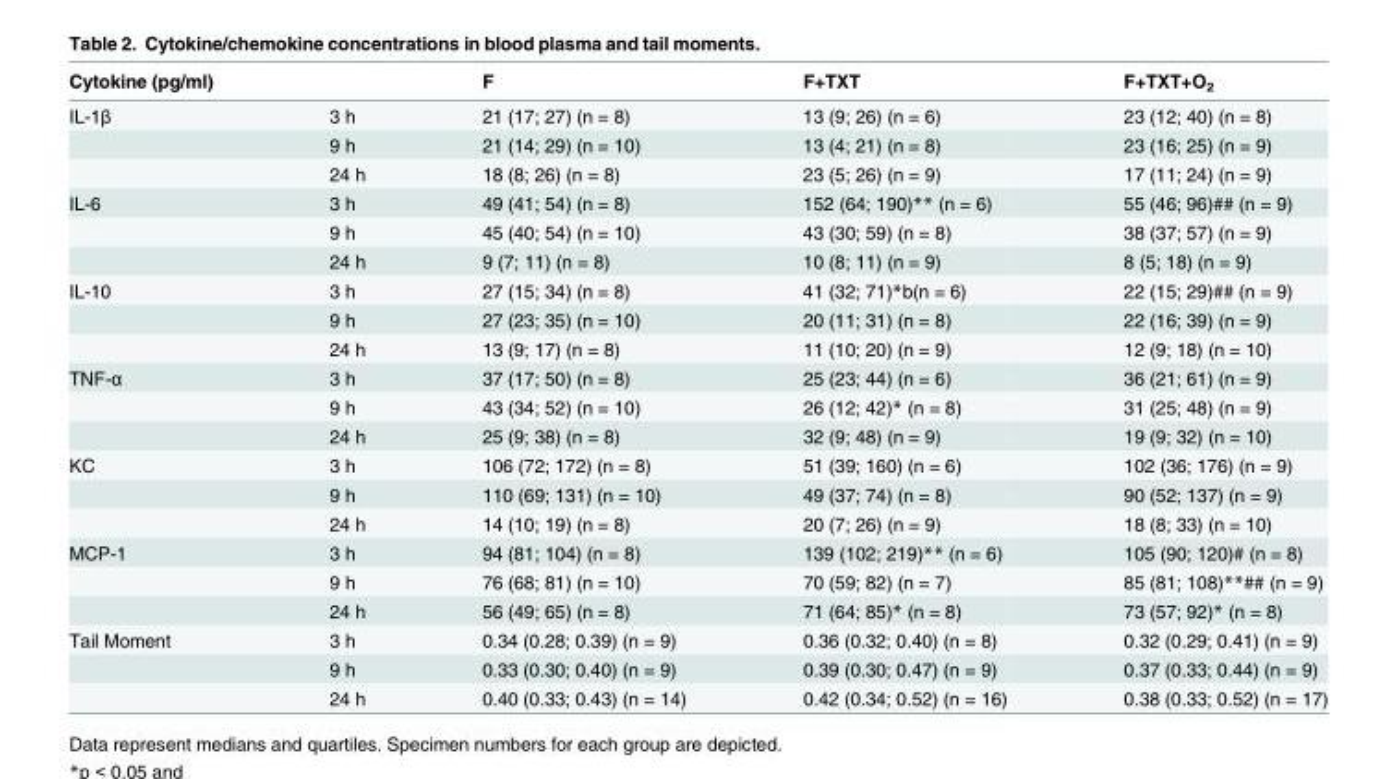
<table><thead><tr><td>Cytokine (pg/ml)</td><td></td><td>F</td><td>F+TXT</td><td>F+TXT+O<sub>2</sub></td></tr></thead><tbody><tr><td rowspan="3">IL-1β</td><td>3 h</td><td>21 (17; 27) (n = 8)</td><td>13 (9; 26) (n = 6)</td><td>23 (12; 40) (n = 8)</td></tr><tr><td>9 h</td><td>21 (14; 29) (n = 10)</td><td>13 (4; 21) (n = 8)</td><td>23 (16; 25) (n = 9)</td></tr><tr><td>24 h</td><td>18 (8; 26) (n = 8)</td><td>23 (5; 26) (n = 9)</td><td>17 (11; 24) (n = 9)</td></tr><tr><td rowspan="3">IL-6</td><td>3 h</td><td>49 (41; 54) (n = 8)</td><td>152 (64; 190)** (n = 6)</td><td>55 (46; 96)## (n = 9)</td></tr><tr><td>9 h</td><td>45 (40; 54) (n = 10)</td><td>43 (30; 59) (n = 8)</td><td>38 (37; 57) (n = 9)</td></tr><tr><td>24 h</td><td>9 (7; 11) (n = 8)</td><td>10 (8; 11) (n = 9)</td><td>8 (5; 18) (n = 9)</td></tr><tr><td rowspan="3">IL-10</td><td>3 h</td><td>27 (15; 34) (n = 8)</td><td>41 (32; 71)*b(n = 6)</td><td>22 (15; 29)## (n = 9)</td></tr><tr><td>9 h</td><td>27 (23; 35) (n = 10)</td><td>20 (11; 31) (n = 8)</td><td>22 (16; 39) (n = 9)</td></tr><tr><td>24 h</td><td>13 (9; 17) (n = 8)</td><td>11 (10; 20) (n = 9)</td><td>12 (9; 18) (n = 10)</td></tr><tr><td rowspan="3">TNF-α</td><td>3 h</td><td>37 (17; 50) (n = 8)</td><td>25 (23; 44) (n = 6)</td><td>36 (21; 61) (n = 9)</td></tr><tr><td>9 h</td><td>43 (34; 52) (n = 10)</td><td>26 (12; 42)* (n = 8)</td><td>31 (25; 48) (n = 9)</td></tr><tr><td>24 h</td><td>25 (9; 38) (n = 8)</td><td>32 (9; 48) (n = 9)</td><td>19 (9; 32) (n = 10)</td></tr><tr><td rowspan="3">KC</td><td>3 h</td><td>106 (72; 172) (n = 8)</td><td>51 (39; 160) (n = 6)</td><td>102 (36; 176) (n = 9)</td></tr><tr><td>9 h</td><td>110 (69; 131) (n = 10)</td><td>49 (37; 74) (n = 8)</td><td>90 (52; 137) (n = 9)</td></tr><tr><td>24 h</td><td>14 (10; 19) (n = 8)</td><td>20 (7; 26) (n = 9)</td><td>18 (8; 33) (n = 10)</td></tr><tr><td rowspan="3">MCP-1</td><td>3 h</td><td>94 (81; 104) (n = 8)</td><td>139 (102; 219)** (n = 6)</td><td>105 (90; 120)# (n = 8)</td></tr><tr><td>9 h</td><td>76 (68; 81) (n = 10)</td><td>70 (59; 82) (n = 7)</td><td>85 (81; 108)**## (n = 9)</td></tr><tr><td>24 h</td><td>56 (49; 65) (n = 8)</td><td>71 (64; 85)* (n = 8)</td><td>73 (57; 92)* (n = 8)</td></tr><tr><td rowspan="3">Tail Moment</td><td>3 h</td><td>0.34 (0.28; 0.39) (n = 9)</td><td>0.36 (0.32; 0.40) (n = 8)</td><td>0.32 (0.29; 0.41) (n = 9)</td></tr><tr><td>9 h</td><td>0.33 (0.30; 0.40) (n = 9)</td><td>0.39 (0.30; 0.47) (n = 9)</td><td>0.37 (0.33; 0.44) (n = 9)</td></tr><tr><td>24 h</td><td>0.40 (0.33; 0.43) (n = 14)</td><td>0.42 (0.34; 0.52) (n = 16)</td><td>0.38 (0.33; 0.52) (n = 17)</td></tr></tbody></table>